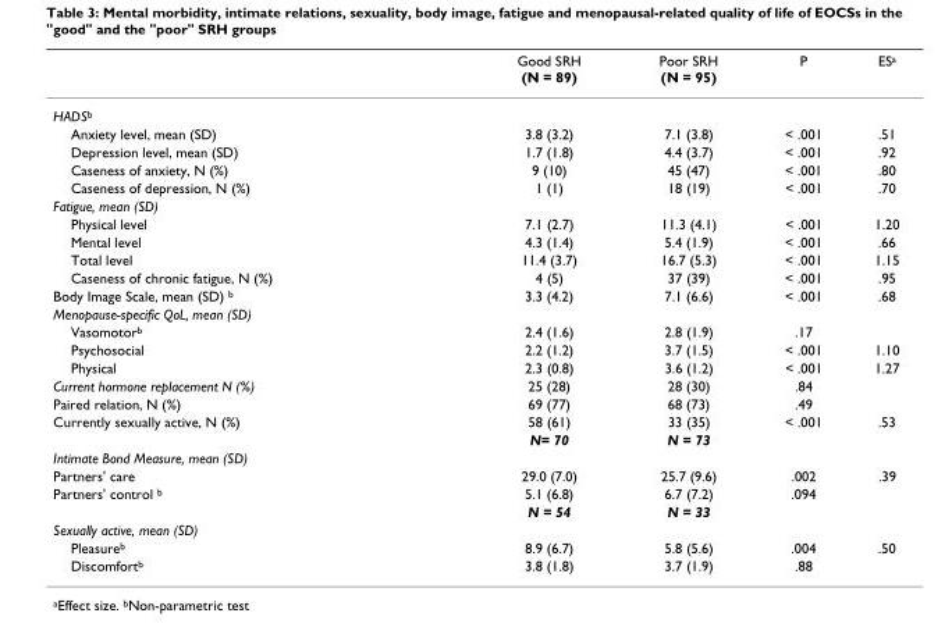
<table><thead><tr><td></td><td>Good SRH (N = 89)</td><td>Poor SRH (N = 95)</td><td>P</td><td>ES<sup>a</sup></td></tr></thead><tbody><tr><td colspan="5">HADS<sup>b</sup></td></tr><tr><td>Anxiety level, mean (SD)</td><td>3.8 (3.2)</td><td>7.1 (3.8)</td><td>&lt; .001</td><td>.51</td></tr><tr><td>Depression level, mean (SD)</td><td>1.7 (1.8)</td><td>4.4 (3.7)</td><td>&lt; .001</td><td>.92</td></tr><tr><td>Caseness of anxiety, N (%)</td><td>9 (10)</td><td>45 (47)</td><td>&lt; .001</td><td>.80</td></tr><tr><td>Caseness of depression, N (%)</td><td>1 (1)</td><td>18 (19)</td><td>&lt; .001</td><td>.70</td></tr><tr><td colspan="5">Fatigue, mean (SD)</td></tr><tr><td>Physical level</td><td>7.1 (2.7)</td><td>11.3 (4.1)</td><td>&lt; .001</td><td>1.20</td></tr><tr><td>Mental level</td><td>4.3 (1.4)</td><td>5.4 (1.9)</td><td>&lt; .001</td><td>.66</td></tr><tr><td>Total level</td><td>11.4 (3.7)</td><td>16.7 (5.3)</td><td>&lt; .001</td><td>1.15</td></tr><tr><td>Caseness of chronic fatigue, N (%)</td><td>4 (5)</td><td>37 (39)</td><td>&lt; .001</td><td>.95</td></tr><tr><td>Body Image Scale, mean (SD) <sup>b</sup></td><td>3.3 (4.2)</td><td>7.1 (6.6)</td><td>&lt; .001</td><td>.68</td></tr><tr><td colspan="5">Menopause-specific QoL, mean (SD)</td></tr><tr><td>Vasomotor<sup>b</sup></td><td>2.4 (1.6)</td><td>2.8 (1.9)</td><td>.17</td><td></td></tr><tr><td>Psychosocial</td><td>2.2 (1.2)</td><td>3.7 (1.5)</td><td>&lt; .001</td><td>1.10</td></tr><tr><td>Physical</td><td>2.3 (0.8)</td><td>3.6 (1.2)</td><td>&lt; .001</td><td>1.27</td></tr><tr><td>Current hormone replacement N (%)</td><td>25 (28)</td><td>28 (30)</td><td>.84</td><td></td></tr><tr><td>Paired relation, N (%)</td><td>69 (77)</td><td>68 (73)</td><td>.49</td><td></td></tr><tr><td rowspan="2">Currently sexually active, N (%)</td><td>58 (61)</td><td>33 (35)</td><td>&lt; .001</td><td>.53</td></tr><tr><td>N= 70</td><td>N = 73</td><td></td><td></td></tr><tr><td colspan="5">Intimate Bond Measure, mean (SD)</td></tr><tr><td>Partners&#x27; care</td><td>29.0 (7.0)</td><td>25.7 (9.6)</td><td>.002</td><td>.39</td></tr><tr><td rowspan="2">Partners&#x27; control <sup>b</sup></td><td>5.1 (6.8)</td><td>6.7 (7.2)</td><td>.094</td><td></td></tr><tr><td>N = 54</td><td>N = 33</td><td></td><td></td></tr><tr><td colspan="5">Sexually active, mean (SD)</td></tr><tr><td>Pleasure<sup>b</sup></td><td>8.9 (6.7)</td><td>5.8 (5.6)</td><td>.004</td><td>.50</td></tr><tr><td>Discomfort<sup>b</sup></td><td>3.8 (1.8)</td><td>3.7 (1.9)</td><td>.88</td><td></td></tr></tbody></table>